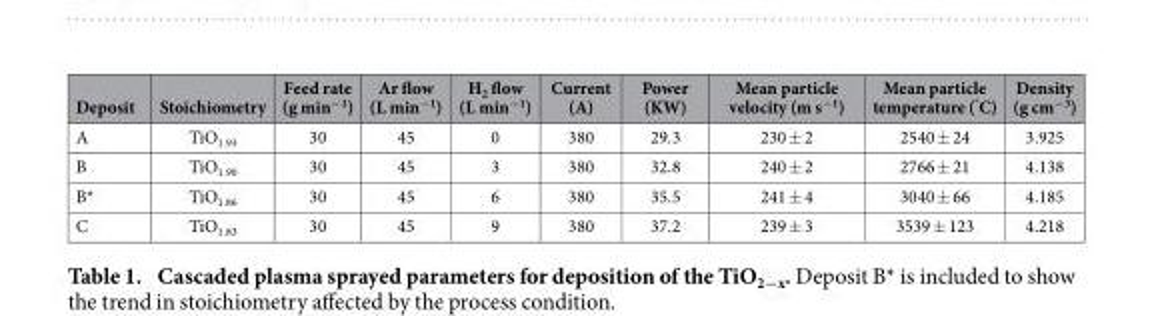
<table><thead><tr><td>Deposit</td><td>Stoichiometry</td><td>Feed rate (g min<sup>−1</sup>)</td><td>Ar flow (L min<sup>−1</sup>)</td><td>H<sub>2</sub> flow (L min<sup>−1</sup>)</td><td>Current (A)</td><td>Power (KW)</td><td>Mean particle velocity (m s<sup>−1</sup>)</td><td>Mean particle temperature (<sup>°</sup>C)</td><td>Density (g cm<sup>−3</sup>)</td></tr></thead><tbody><tr><td>A</td><td>TiO<sub>1.93</sub></td><td>30</td><td>45</td><td>0</td><td>380</td><td>29.3</td><td>230 ± 2</td><td>2540 ± 24</td><td>3.925</td></tr><tr><td>B</td><td>TiO<sub>1.90</sub></td><td>30</td><td>45</td><td>3</td><td>380</td><td>32.8</td><td>240 ± 2</td><td>2766 ± 21</td><td>4.138</td></tr><tr><td>B*</td><td>TiO<sub>1.86</sub></td><td>30</td><td>45</td><td>6</td><td>380</td><td>35.5</td><td>241 ± 4</td><td>3040 ± 66</td><td>4.185</td></tr><tr><td>C</td><td>TiO<sub>1.83</sub></td><td>30</td><td>45</td><td>9</td><td>380</td><td>37.2</td><td>239 ± 3</td><td>3539 ± 123</td><td>4.218</td></tr></tbody></table>